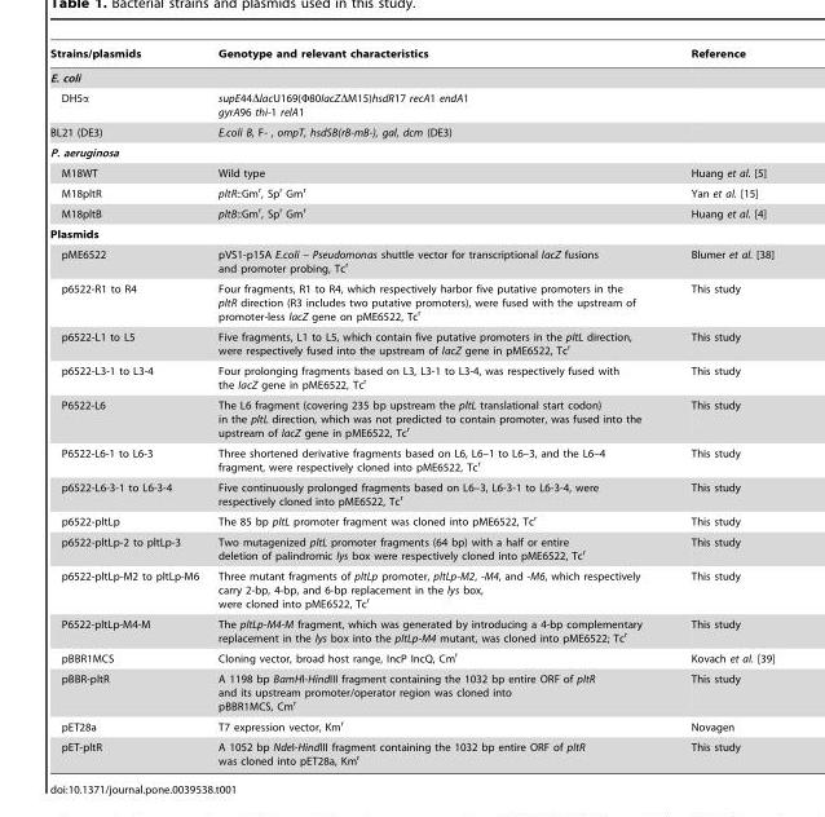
<table><thead><tr><td>Strains/plasmids</td><td>Genotype and relevant characteristics</td><td>Reference</td></tr></thead><tbody><tr><td colspan="3">E. coli</td></tr><tr><td>DH5α</td><td>supE44ΔlacU169(Φ80lacZΔM15)hsdR17 recA1 endA1 gyrA96 thi-1 relA1</td><td></td></tr><tr><td>BL21 (DE3)</td><td>E.coli B, F- , ompT, hsdSB(rB-mB-), gal, dcm (DE3)</td><td></td></tr><tr><td colspan="3">P. aeruginosa</td></tr><tr><td>M18WT</td><td>Wild type</td><td>Huang et al. [5]</td></tr><tr><td>M18pltR</td><td>pltR::Gm<sup>r</sup>, Sp<sup>r</sup> Gm<sup>r</sup></td><td>Yan et al. [15]</td></tr><tr><td>M18pltB</td><td>pltB::Gm<sup>r</sup>, Sp<sup>r</sup> Gm<sup>r</sup></td><td>Huang et al. [4]</td></tr><tr><td colspan="3">Plasmids</td></tr><tr><td>pME6522</td><td>pVS1-p15A E.coli – Pseudomonas shuttle vector for transcriptional lacZ fusions and promoter probing, Tc<sup>r</sup></td><td>Blumer et al. [38]</td></tr><tr><td>p6522-R1 to R4</td><td>Four fragments, R1 to R4, which respectively harbor five putative promoters in the pltR direction (R3 includes two putative promoters), were fused with the upstream of promoter-less lacZ gene on pME6522, Tc<sup>r</sup></td><td>This study</td></tr><tr><td>p6522-L1 to L5</td><td>Five fragments, L1 to L5, which contain five putative promoters in the pltL direction, were respectively fused into the upstream of lacZ gene in pME6522, Tc<sup>r</sup></td><td>This study</td></tr><tr><td>p6522-L3-1 to L3-4</td><td>Four prolonging fragments based on L3, L3-1 to L3-4, was respectively fused with the lacZ gene in pME6522, Tc<sup>r</sup></td><td>This study</td></tr><tr><td>P6522-L6</td><td>The L6 fragment (covering 235 bp upstream the pltL translational start codon) in the pltL direction, which was not predicted to contain promoter, was fused into the upstream of lacZ gene in pME6522, Tc<sup>r</sup></td><td>This study</td></tr><tr><td>P6522-L6-1 to L6-3</td><td>Three shortened derivative fragments based on L6, L6–1 to L6–3, and the L6–4 fragment, were respectively cloned into pME6522, Tc<sup>r</sup></td><td>This study</td></tr><tr><td>p6522-L6-3-1 to L6-3-4</td><td>Five continuously prolonged fragments based on L6–3, L6-3-1 to L6-3-4, were respectively cloned into pME6522, Tc<sup>r</sup></td><td>This study</td></tr><tr><td>p6522-pltLp</td><td>The 85 bp pltL promoter fragment was cloned into pME6522, Tc<sup>r</sup></td><td>This study</td></tr><tr><td>p6522-pltLp-2 to pltLp-3</td><td>Two mutagenized pltL promoter fragments (64 bp) with a half or entire deletion of palindromic lys box were respectively cloned into pME6522, Tc<sup>r</sup></td><td>This study</td></tr><tr><td>p6522-pltLp-M2 to pltLp-M6</td><td>Three mutant fragments of pltLp promoter, pltLp-M2, -M4, and -M6, which respectively carry 2-bp, 4-bp, and 6-bp replacement in the lys box, were cloned into pME6522, Tc<sup>r</sup></td><td>This study</td></tr><tr><td>P6522-pltLp-M4-M</td><td>The pltLp-M4-M fragment, which was generated by introducing a 4-bp complementary replacement in the lys box into the pltLp-M4 mutant, was cloned into pME6522; Tc<sup>r</sup></td><td>This study</td></tr><tr><td>pBBR1MCS</td><td>Cloning vector, broad host range, IncP IncQ, Cm<sup>r</sup></td><td>Kovach et al. [39]</td></tr><tr><td>pBBR-pltR</td><td>A 1198 bp BamHI-HindIII fragment containing the 1032 bp entire ORF of pltR and its upstream promoter/operator region was cloned into pBBR1MCS, Cm<sup>r</sup></td><td>This study</td></tr><tr><td>pET28a</td><td>T7 expression vector, Km<sup>r</sup></td><td>Novagen</td></tr><tr><td>pET-pltR</td><td>A 1052 bp NdeI-HindIII fragment containing the 1032 bp entire ORF of pltR was cloned into pET28a, Km<sup>r</sup></td><td>This study</td></tr></tbody></table>